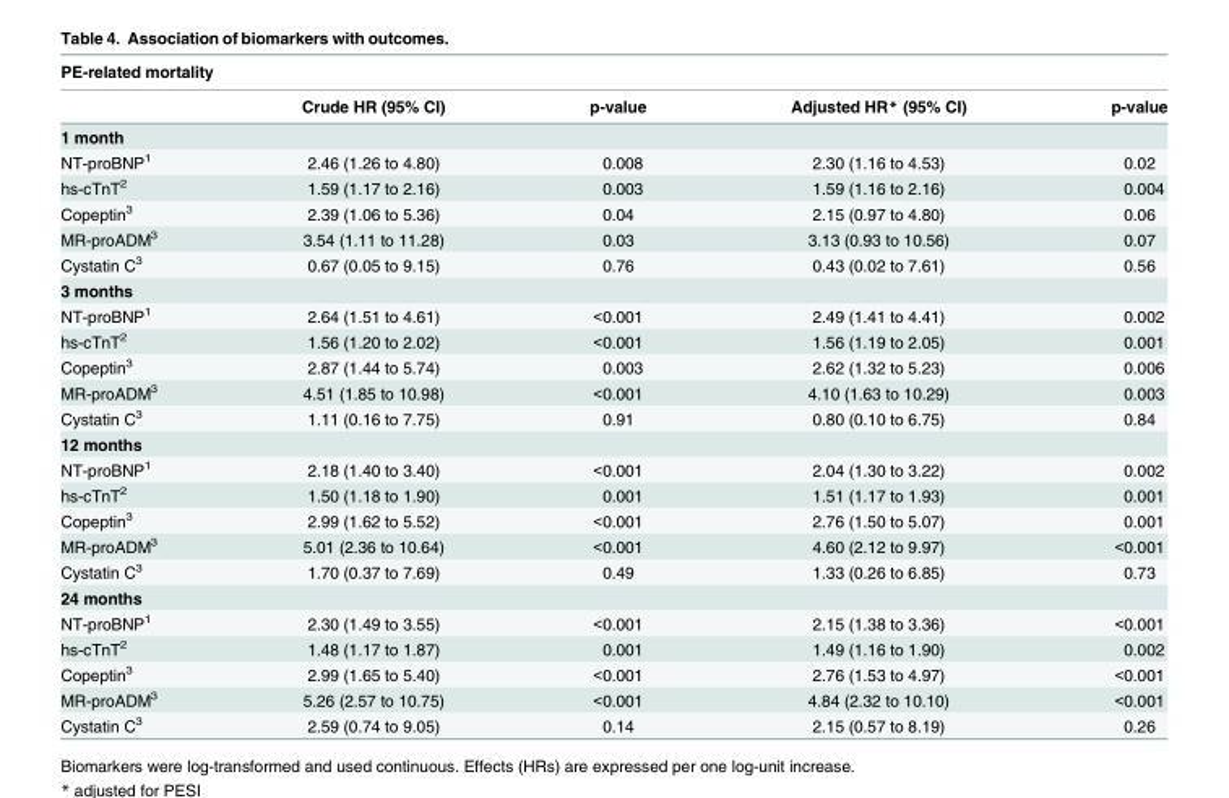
<table><thead><tr><td colspan="5">PE-related mortality</td></tr><tr><td></td><td>Crude HR (95% CI)</td><td>p-value</td><td>Adjusted HR* (95% CI)</td><td>p-value</td></tr></thead><tbody><tr><td colspan="5">1 month</td></tr><tr><td>NT-proBNP<sup>1</sup></td><td>2.46 (1.26 to 4.80)</td><td>0.008</td><td>2.30 (1.16 to 4.53)</td><td>0.02</td></tr><tr><td>hs-cTnT<sup>2</sup></td><td>1.59 (1.17 to 2.16)</td><td>0.003</td><td>1.59 (1.16 to 2.16)</td><td>0.004</td></tr><tr><td>Copeptin<sup>3</sup></td><td>2.39 (1.06 to 5.36)</td><td>0.04</td><td>2.15 (0.97 to 4.80)</td><td>0.06</td></tr><tr><td>MR-proADM<sup>3</sup></td><td>3.54 (1.11 to 11.28)</td><td>0.03</td><td>3.13 (0.93 to 10.56)</td><td>0.07</td></tr><tr><td>Cystatin C<sup>3</sup></td><td>0.67 (0.05 to 9.15)</td><td>0.76</td><td>0.43 (0.02 to 7.61)</td><td>0.56</td></tr><tr><td colspan="5">3 months</td></tr><tr><td>NT-proBNP<sup>1</sup></td><td>2.64 (1.51 to 4.61)</td><td>&lt;0.001</td><td>2.49 (1.41 to 4.41)</td><td>0.002</td></tr><tr><td>hs-cTnT<sup>2</sup></td><td>1.56 (1.20 to 2.02)</td><td>&lt;0.001</td><td>1.56 (1.19 to 2.05)</td><td>0.001</td></tr><tr><td>Copeptin<sup>3</sup></td><td>2.87 (1.44 to 5.74)</td><td>0.003</td><td>2.62 (1.32 to 5.23)</td><td>0.006</td></tr><tr><td>MR-proADM<sup>3</sup></td><td>4.51 (1.85 to 10.98)</td><td>&lt;0.001</td><td>4.10 (1.63 to 10.29)</td><td>0.003</td></tr><tr><td>Cystatin C<sup>3</sup></td><td>1.11 (0.16 to 7.75)</td><td>0.91</td><td>0.80 (0.10 to 6.75)</td><td>0.84</td></tr><tr><td colspan="5">12 months</td></tr><tr><td>NT-proBNP<sup>1</sup></td><td>2.18 (1.40 to 3.40)</td><td>&lt;0.001</td><td>2.04 (1.30 to 3.22)</td><td>0.002</td></tr><tr><td>hs-cTnT<sup>2</sup></td><td>1.50 (1.18 to 1.90)</td><td>0.001</td><td>1.51 (1.17 to 1.93)</td><td>0.001</td></tr><tr><td>Copeptin<sup>3</sup></td><td>2.99 (1.62 to 5.52)</td><td>&lt;0.001</td><td>2.76 (1.50 to 5.07)</td><td>0.001</td></tr><tr><td>MR-proADM<sup>3</sup></td><td>5.01 (2.36 to 10.64)</td><td>&lt;0.001</td><td>4.60 (2.12 to 9.97)</td><td>&lt;0.001</td></tr><tr><td>Cystatin C<sup>3</sup></td><td>1.70 (0.37 to 7.69)</td><td>0.49</td><td>1.33 (0.26 to 6.85)</td><td>0.73</td></tr><tr><td colspan="5">24 months</td></tr><tr><td>NT-proBNP<sup>1</sup></td><td>2.30 (1.49 to 3.55)</td><td>&lt;0.001</td><td>2.15 (1.38 to 3.36)</td><td>&lt;0.001</td></tr><tr><td>hs-cTnT<sup>2</sup></td><td>1.48 (1.17 to 1.87)</td><td>0.001</td><td>1.49 (1.16 to 1.90)</td><td>0.002</td></tr><tr><td>Copeptin<sup>3</sup></td><td>2.99 (1.65 to 5.40)</td><td>&lt;0.001</td><td>2.76 (1.53 to 4.97)</td><td>&lt;0.001</td></tr><tr><td>MR-proADM<sup>3</sup></td><td>5.26 (2.57 to 10.75)</td><td>&lt;0.001</td><td>4.84 (2.32 to 10.10)</td><td>&lt;0.001</td></tr><tr><td>Cystatin C<sup>3</sup></td><td>2.59 (0.74 to 9.05)</td><td>0.14</td><td>2.15 (0.57 to 8.19)</td><td>0.26</td></tr></tbody></table>